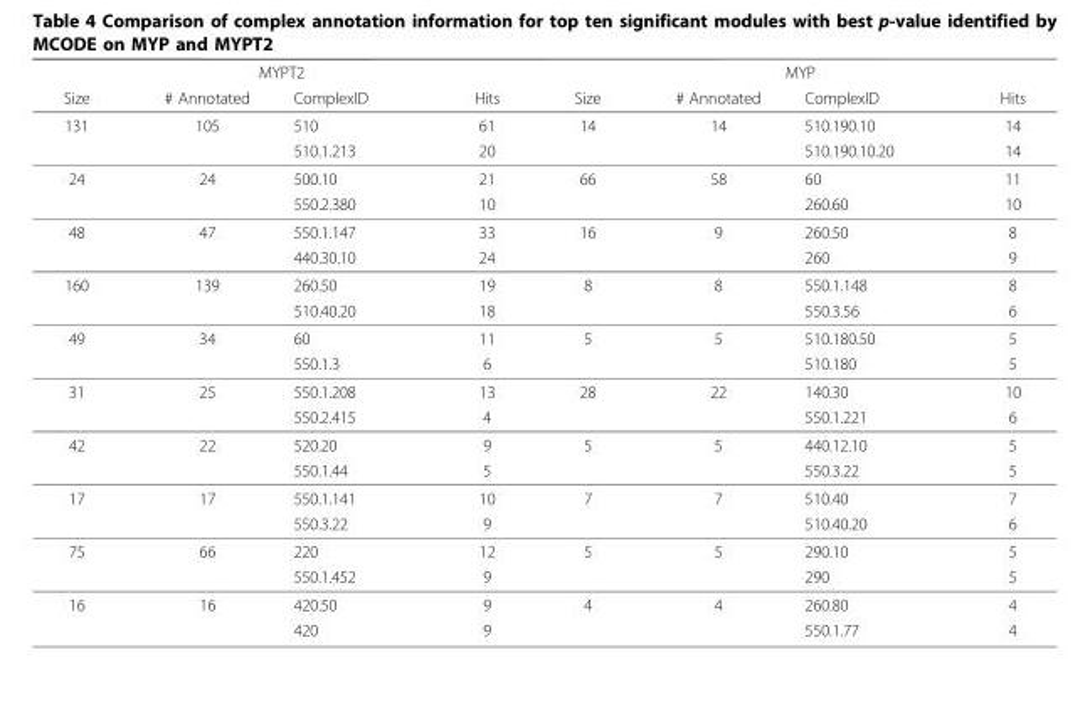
<table><thead><tr><td colspan="4">MYPT2</td><td colspan="4">MYP</td></tr><tr><td>Size</td><td># Annotated</td><td>ComplexID</td><td>Hits</td><td>Size</td><td># Annotated</td><td>ComplexID</td><td>Hits</td></tr></thead><tbody><tr><td rowspan="2">131</td><td rowspan="2">105</td><td>510</td><td>61</td><td rowspan="2">14</td><td rowspan="2">14</td><td>510.190.10</td><td>14</td></tr><tr><td>510.1.213</td><td>20</td><td>510.190.10.20</td><td>14</td></tr><tr><td rowspan="2">24</td><td rowspan="2">24</td><td>500.10</td><td>21</td><td rowspan="2">66</td><td rowspan="2">58</td><td>60</td><td>11</td></tr><tr><td>550.2.380</td><td>10</td><td>260.60</td><td>10</td></tr><tr><td rowspan="2">48</td><td rowspan="2">47</td><td>550.1.147</td><td>33</td><td rowspan="2">16</td><td rowspan="2">9</td><td>260.50</td><td>8</td></tr><tr><td>440.30.10</td><td>24</td><td>260</td><td>9</td></tr><tr><td rowspan="2">160</td><td rowspan="2">139</td><td>260.50</td><td>19</td><td rowspan="2">8</td><td rowspan="2">8</td><td>550.1.148</td><td>8</td></tr><tr><td>510.40.20</td><td>18</td><td>550.3.56</td><td>6</td></tr><tr><td rowspan="2">49</td><td rowspan="2">34</td><td>60</td><td>11</td><td rowspan="2">5</td><td rowspan="2">5</td><td>510.180.50</td><td>5</td></tr><tr><td>550.1.3</td><td>6</td><td>510.180</td><td>5</td></tr><tr><td rowspan="2">31</td><td rowspan="2">25</td><td>550.1.208</td><td>13</td><td rowspan="2">28</td><td rowspan="2">22</td><td>140.30</td><td>10</td></tr><tr><td>550.2.415</td><td>4</td><td>550.1.221</td><td>6</td></tr><tr><td rowspan="2">42</td><td rowspan="2">22</td><td>520.20</td><td>9</td><td rowspan="2">5</td><td rowspan="2">5</td><td>440.12.10</td><td>5</td></tr><tr><td>550.1.44</td><td>5</td><td>550.3.22</td><td>5</td></tr><tr><td rowspan="2">17</td><td rowspan="2">17</td><td>550.1.141</td><td>10</td><td rowspan="2">7</td><td rowspan="2">7</td><td>510.40</td><td>7</td></tr><tr><td>550.3.22</td><td>9</td><td>510.40.20</td><td>6</td></tr><tr><td rowspan="2">75</td><td rowspan="2">66</td><td>220</td><td>12</td><td rowspan="2">5</td><td rowspan="2">5</td><td>290.10</td><td>5</td></tr><tr><td>550.1.452</td><td>9</td><td>290</td><td>5</td></tr><tr><td rowspan="2">16</td><td rowspan="2">16</td><td>420.50</td><td>9</td><td rowspan="2">4</td><td rowspan="2">4</td><td>260.80</td><td>4</td></tr><tr><td>420</td><td>9</td><td>550.1.77</td><td>4</td></tr></tbody></table>